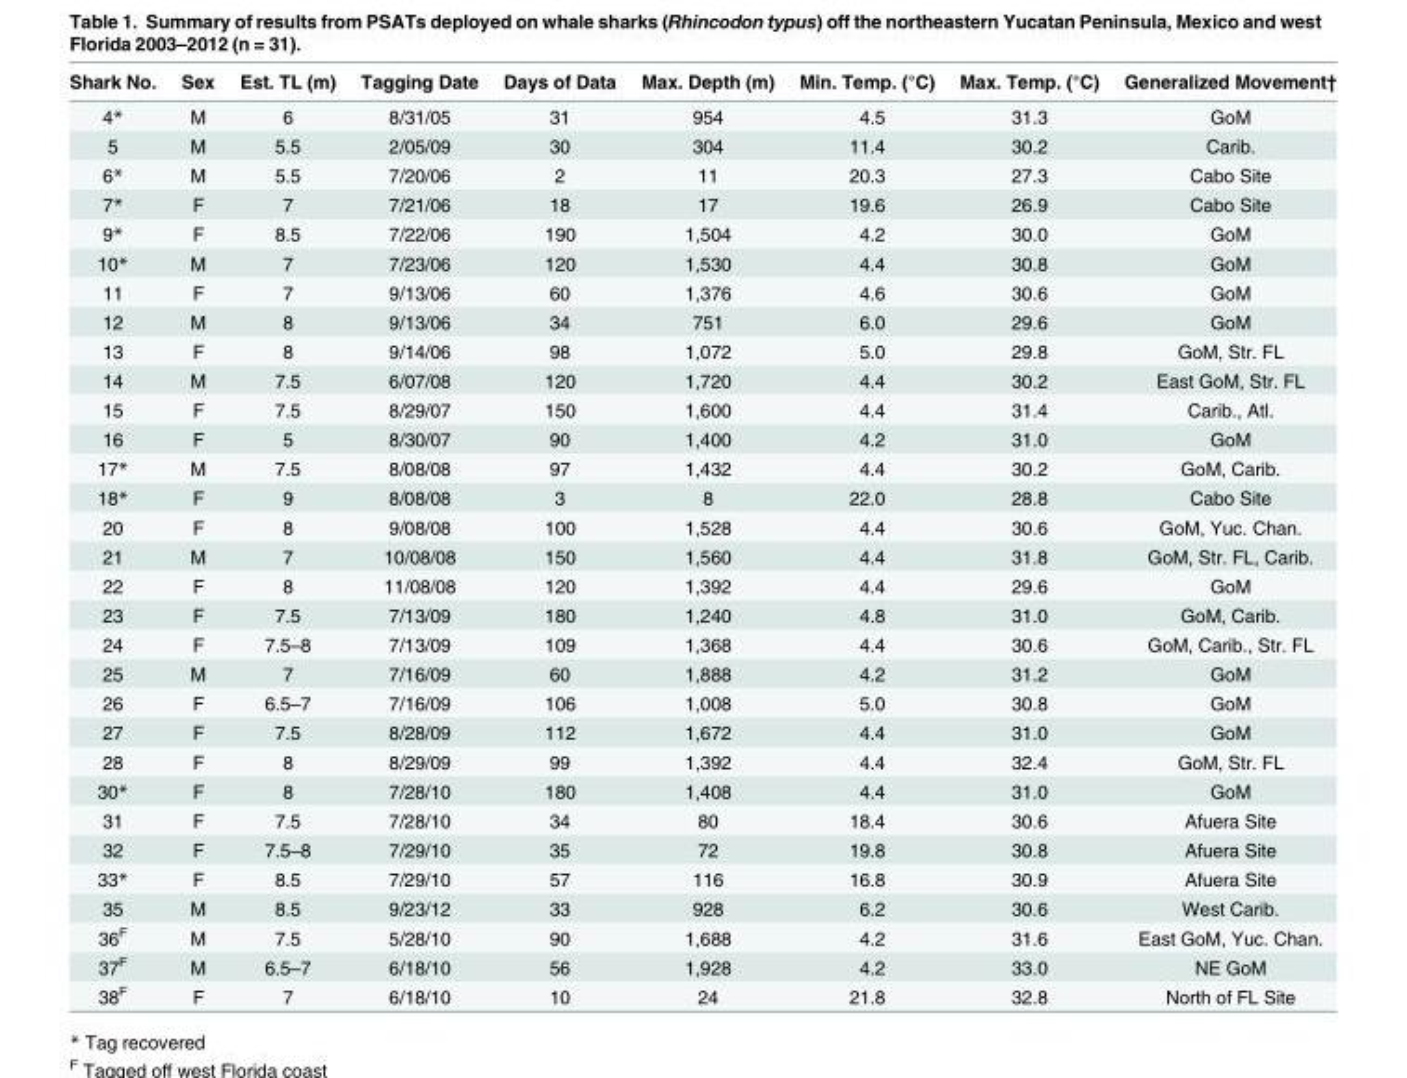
<table><thead><tr><td>Shark No.</td><td>Sex</td><td>Est. TL (m)</td><td>Tagging Date</td><td>Days of Data</td><td>Max. Depth (m)</td><td>Min. Temp. (°C)</td><td>Max. Temp. (°C)</td><td>Generalized Movement†</td></tr></thead><tbody><tr><td>4*</td><td>M</td><td>6</td><td>8/31/05</td><td>31</td><td>954</td><td>4.5</td><td>31.3</td><td>GoM</td></tr><tr><td>5</td><td>M</td><td>5.5</td><td>2/05/09</td><td>30</td><td>304</td><td>11.4</td><td>30.2</td><td>Carib.</td></tr><tr><td>6*</td><td>M</td><td>5.5</td><td>7/20/06</td><td>2</td><td>11</td><td>20.3</td><td>27.3</td><td>Cabo Site</td></tr><tr><td>7*</td><td>F</td><td>7</td><td>7/21/06</td><td>18</td><td>17</td><td>19.6</td><td>26.9</td><td>Cabo Site</td></tr><tr><td>9*</td><td>F</td><td>8.5</td><td>7/22/06</td><td>190</td><td>1,504</td><td>4.2</td><td>30.0</td><td>GoM</td></tr><tr><td>10*</td><td>M</td><td>7</td><td>7/23/06</td><td>120</td><td>1,530</td><td>4.4</td><td>30.8</td><td>GoM</td></tr><tr><td>11</td><td>F</td><td>7</td><td>9/13/06</td><td>60</td><td>1,376</td><td>4.6</td><td>30.6</td><td>GoM</td></tr><tr><td>12</td><td>M</td><td>8</td><td>9/13/06</td><td>34</td><td>751</td><td>6.0</td><td>29.6</td><td>GoM</td></tr><tr><td>13</td><td>F</td><td>8</td><td>9/14/06</td><td>98</td><td>1,072</td><td>5.0</td><td>29.8</td><td>GoM, Str. FL</td></tr><tr><td>14</td><td>M</td><td>7.5</td><td>6/07/08</td><td>120</td><td>1,720</td><td>4.4</td><td>30.2</td><td>East GoM, Str. FL</td></tr><tr><td>15</td><td>F</td><td>7.5</td><td>8/29/07</td><td>150</td><td>1,600</td><td>4.4</td><td>31.4</td><td>Carib., Atl.</td></tr><tr><td>16</td><td>F</td><td>5</td><td>8/30/07</td><td>90</td><td>1,400</td><td>4.2</td><td>31.0</td><td>GoM</td></tr><tr><td>17*</td><td>M</td><td>7.5</td><td>8/08/08</td><td>97</td><td>1,432</td><td>4.4</td><td>30.2</td><td>GoM, Carib.</td></tr><tr><td>18*</td><td>F</td><td>9</td><td>8/08/08</td><td>3</td><td>8</td><td>22.0</td><td>28.8</td><td>Cabo Site</td></tr><tr><td>20</td><td>F</td><td>8</td><td>9/08/08</td><td>100</td><td>1,528</td><td>4.4</td><td>30.6</td><td>GoM, Yuc. Chan.</td></tr><tr><td>21</td><td>M</td><td>7</td><td>10/08/08</td><td>150</td><td>1,560</td><td>4.4</td><td>31.8</td><td>GoM, Str. FL, Carib.</td></tr><tr><td>22</td><td>F</td><td>8</td><td>11/08/08</td><td>120</td><td>1,392</td><td>4.4</td><td>29.6</td><td>GoM</td></tr><tr><td>23</td><td>F</td><td>7.5</td><td>7/13/09</td><td>180</td><td>1,240</td><td>4.8</td><td>31.0</td><td>GoM, Carib.</td></tr><tr><td>24</td><td>F</td><td>7.5–8</td><td>7/13/09</td><td>109</td><td>1,368</td><td>4.4</td><td>30.6</td><td>GoM, Carib., Str. FL</td></tr><tr><td>25</td><td>M</td><td>7</td><td>7/16/09</td><td>60</td><td>1,888</td><td>4.2</td><td>31.2</td><td>GoM</td></tr><tr><td>26</td><td>F</td><td>6.5–7</td><td>7/16/09</td><td>106</td><td>1,008</td><td>5.0</td><td>30.8</td><td>GoM</td></tr><tr><td>27</td><td>F</td><td>7.5</td><td>8/28/09</td><td>112</td><td>1,672</td><td>4.4</td><td>31.0</td><td>GoM</td></tr><tr><td>28</td><td>F</td><td>8</td><td>8/29/09</td><td>99</td><td>1,392</td><td>4.4</td><td>32.4</td><td>GoM, Str. FL</td></tr><tr><td>30*</td><td>F</td><td>8</td><td>7/28/10</td><td>180</td><td>1,408</td><td>4.4</td><td>31.0</td><td>GoM</td></tr><tr><td>31</td><td>F</td><td>7.5</td><td>7/28/10</td><td>34</td><td>80</td><td>18.4</td><td>30.6</td><td>Afuera Site</td></tr><tr><td>32</td><td>F</td><td>7.5–8</td><td>7/29/10</td><td>35</td><td>72</td><td>19.8</td><td>30.8</td><td>Afuera Site</td></tr><tr><td>33*</td><td>F</td><td>8.5</td><td>7/29/10</td><td>57</td><td>116</td><td>16.8</td><td>30.9</td><td>Afuera Site</td></tr><tr><td>35</td><td>M</td><td>8.5</td><td>9/23/12</td><td>33</td><td>928</td><td>6.2</td><td>30.6</td><td>West Carib.</td></tr><tr><td>36<sup>F</sup></td><td>M</td><td>7.5</td><td>5/28/10</td><td>90</td><td>1,688</td><td>4.2</td><td>31.6</td><td>East GoM, Yuc. Chan.</td></tr><tr><td>37<sup>F</sup></td><td>M</td><td>6.5–7</td><td>6/18/10</td><td>56</td><td>1,928</td><td>4.2</td><td>33.0</td><td>NE GoM</td></tr><tr><td>38<sup>F</sup></td><td>F</td><td>7</td><td>6/18/10</td><td>10</td><td>24</td><td>21.8</td><td>32.8</td><td>North of FL Site</td></tr></tbody></table>